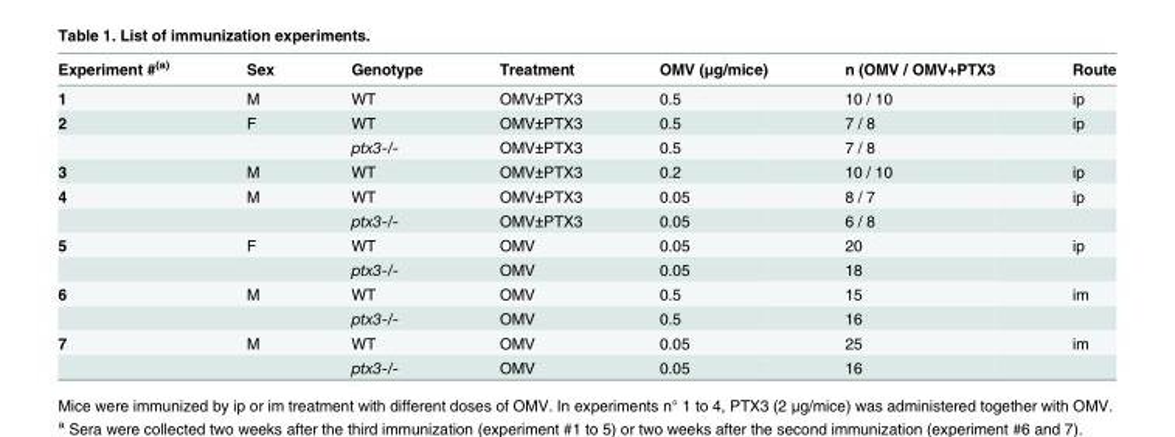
<table><thead><tr><td>Experiment #<sup>(a)</sup></td><td>Sex</td><td>Genotype</td><td>Treatment</td><td>OMV (μg/mice)</td><td>n (OMV / OMV+PTX3</td><td>Route</td></tr></thead><tbody><tr><td>1</td><td>M</td><td>WT</td><td>OMV±PTX3</td><td>0.5</td><td>10 / 10</td><td>ip</td></tr><tr><td rowspan="2">2</td><td>F</td><td>WT</td><td>OMV±PTX3</td><td>0.5</td><td>7 / 8</td><td>ip</td></tr><tr><td></td><td>ptx3-/-</td><td>OMV±PTX3</td><td>0.5</td><td>7 / 8</td><td></td></tr><tr><td>3</td><td>M</td><td>WT</td><td>OMV±PTX3</td><td>0.2</td><td>10 / 10</td><td>ip</td></tr><tr><td rowspan="2">4</td><td>M</td><td>WT</td><td>OMV±PTX3</td><td>0.05</td><td>8 / 7</td><td>ip</td></tr><tr><td></td><td>ptx3-/-</td><td>OMV±PTX3</td><td>0.05</td><td>6 / 8</td><td></td></tr><tr><td rowspan="2">5</td><td>F</td><td>WT</td><td>OMV</td><td>0.05</td><td>20</td><td>ip</td></tr><tr><td></td><td>ptx3-/-</td><td>OMV</td><td>0.05</td><td>18</td><td></td></tr><tr><td rowspan="2">6</td><td>M</td><td>WT</td><td>OMV</td><td>0.5</td><td>15</td><td>im</td></tr><tr><td></td><td>ptx3-/-</td><td>OMV</td><td>0.5</td><td>16</td><td></td></tr><tr><td rowspan="2">7</td><td>M</td><td>WT</td><td>OMV</td><td>0.05</td><td>25</td><td>im</td></tr><tr><td></td><td>ptx3-/-</td><td>OMV</td><td>0.05</td><td>16</td><td></td></tr></tbody></table>